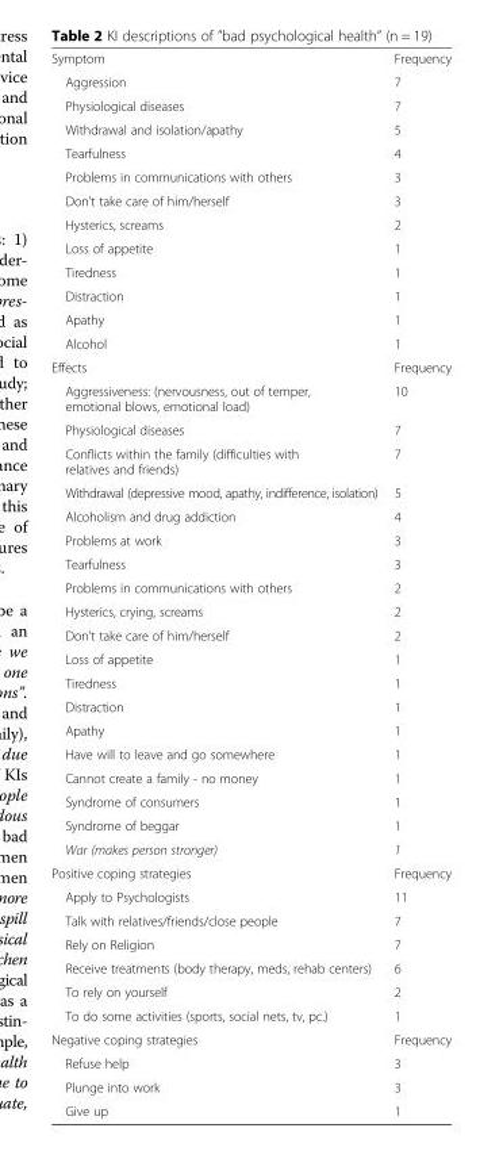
<table><tbody><tr><td>Symptom</td><td>Frequency</td></tr><tr><td>Aggression</td><td>7</td></tr><tr><td>Physiological diseases</td><td>7</td></tr><tr><td>Withdrawal and isolation/apathy</td><td>5</td></tr><tr><td>Tearfulness</td><td>4</td></tr><tr><td>Problems in communications with others</td><td>3</td></tr><tr><td>Don’t take care of him/herself</td><td>3</td></tr><tr><td>Hysterics, screams</td><td>2</td></tr><tr><td>Loss of appetite</td><td>1</td></tr><tr><td>Tiredness</td><td>1</td></tr><tr><td>Distraction</td><td>1</td></tr><tr><td>Apathy</td><td>1</td></tr><tr><td>Alcohol</td><td>1</td></tr><tr><td>Effects</td><td>Frequency</td></tr><tr><td>Aggressiveness: (nervousness, out of temper, emotional blows, emotional load)</td><td>10</td></tr><tr><td>Physiological diseases</td><td>7</td></tr><tr><td>Conflicts within the family (difficulties with relatives and friends)</td><td>7</td></tr><tr><td>Withdrawal (depressive mood, apathy, indifference, isolation)</td><td>5</td></tr><tr><td>Alcoholism and drug addiction</td><td>4</td></tr><tr><td>Problems at work</td><td>3</td></tr><tr><td>Tearfulness</td><td>3</td></tr><tr><td>Problems in communications with others</td><td>2</td></tr><tr><td>Hysterics, crying, screams</td><td>2</td></tr><tr><td>Don’t take care of him/herself</td><td>2</td></tr><tr><td>Loss of appetite</td><td>1</td></tr><tr><td>Tiredness</td><td>1</td></tr><tr><td>Distraction</td><td>1</td></tr><tr><td>Apathy</td><td>1</td></tr><tr><td>Have will to leave and go somewhere</td><td>1</td></tr><tr><td>Cannot create a family - no money</td><td>1</td></tr><tr><td>Syndrome of consumers</td><td>1</td></tr><tr><td>Syndrome of beggar</td><td>1</td></tr><tr><td>War (makes person stronger)</td><td>1</td></tr><tr><td>Positive coping strategies</td><td>Frequency</td></tr><tr><td>Apply to Psychologists</td><td>11</td></tr><tr><td>Talk with relatives/friends/close people</td><td>7</td></tr><tr><td>Rely on Religion</td><td>7</td></tr><tr><td>Receive treatments (body therapy, meds, rehab centers)</td><td>6</td></tr><tr><td>To rely on yourself</td><td>2</td></tr><tr><td>To do some activities (sports, social nets, tv, pc.)</td><td>1</td></tr><tr><td>Negative coping strategies</td><td>Frequency</td></tr><tr><td>Refuse help</td><td>3</td></tr><tr><td>Plunge into work</td><td>3</td></tr><tr><td>Give up</td><td>1</td></tr></tbody></table>